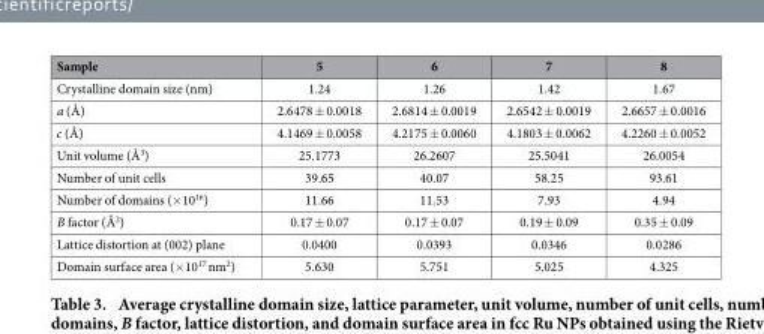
<table><thead><tr><td>Sample</td><td>5</td><td>6</td><td>7</td><td>8</td></tr></thead><tbody><tr><td>Crystalline domain size (nm)</td><td>1.24</td><td>1.26</td><td>1.42</td><td>1.67</td></tr><tr><td>a (Å)</td><td>2.6478 ± 0.0018</td><td>2.6814 ± 0.0019</td><td>2.6542 ± 0.0019</td><td>2.6657 ± 0.0016</td></tr><tr><td>c (Å)</td><td>4.1469 ± 0.0058</td><td>4.2175 ± 0.0060</td><td>4.1803 ± 0.0062</td><td>4.2260 ± 0.0052</td></tr><tr><td>Unit volume (Å<sup>3</sup>)</td><td>25.1773</td><td>26.2607</td><td>25.5041</td><td>26.0054</td></tr><tr><td>Number of unit cells</td><td>39.65</td><td>40.07</td><td>58.25</td><td>93.61</td></tr><tr><td>Number of domains (× 10<sup>16</sup>)</td><td>11.66</td><td>11.53</td><td>7.93</td><td>4.94</td></tr><tr><td>B factor (Å<sup>2</sup>)</td><td>0.17 ± 0.07</td><td>0.17 ± 0.07</td><td>0.19 ± 0.09</td><td>0.35 ± 0.09</td></tr><tr><td>Lattice distortion at (002) plane</td><td>0.0400</td><td>0.0393</td><td>0.0346</td><td>0.0286</td></tr><tr><td>Domain surface area (× 10<sup>17</sup> nm<sup>2</sup>)</td><td>5.630</td><td>5.751</td><td>5.025</td><td>4.325</td></tr></tbody></table>